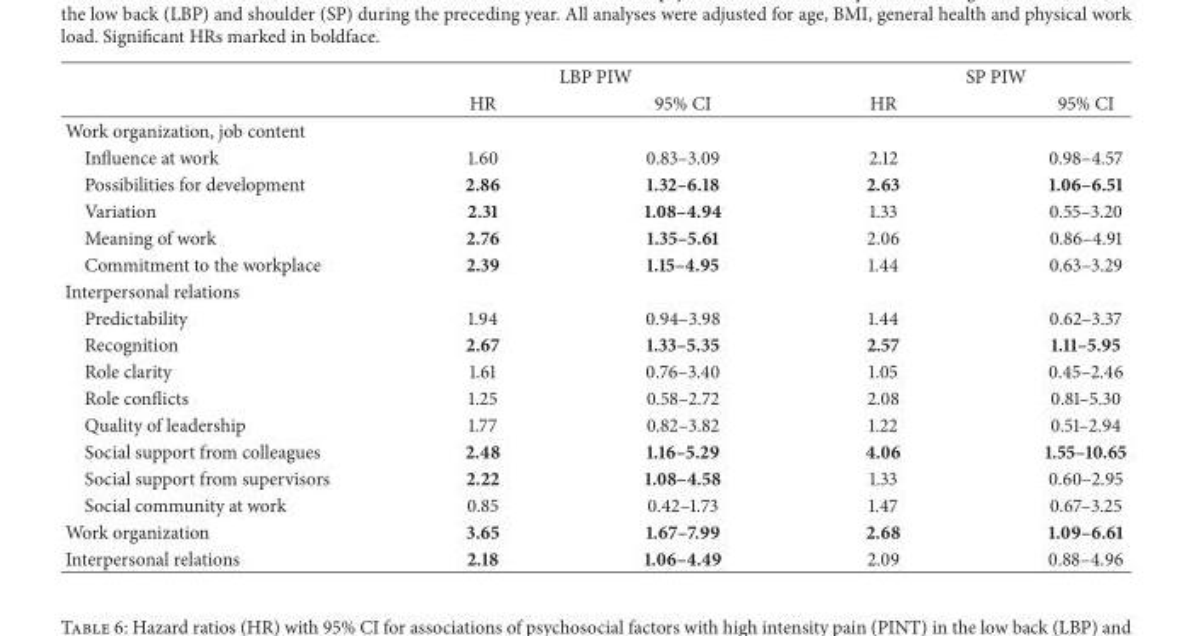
<table><thead><tr><td rowspan="2"></td><td colspan="2">LBP PIW</td><td colspan="2">SP PIW</td></tr><tr><td>HR</td><td>95% CI</td><td>HR</td><td>95% CI</td></tr></thead><tbody><tr><td colspan="5">Work organization, job content</td></tr><tr><td>Influence at work</td><td>1.60</td><td>0.83–3.09</td><td>2.12</td><td>0.98–4.57</td></tr><tr><td>Possibilities for development</td><td>2.86</td><td>1.32–6.18</td><td>2.63</td><td>1.06–6.51</td></tr><tr><td>Variation</td><td>2.31</td><td>1.08–4.94</td><td>1.33</td><td>0.55–3.20</td></tr><tr><td>Meaning of work</td><td>2.76</td><td>1.35–5.61</td><td>2.06</td><td>0.86–4.91</td></tr><tr><td>Commitment to the workplace</td><td>2.39</td><td>1.15–4.95</td><td>1.44</td><td>0.63–3.29</td></tr><tr><td colspan="5">Interpersonal relations</td></tr><tr><td>Predictability</td><td>1.94</td><td>0.94–3.98</td><td>1.44</td><td>0.62–3.37</td></tr><tr><td>Recognition</td><td>2.67</td><td>1.33–5.35</td><td>2.57</td><td>1.11–5.95</td></tr><tr><td>Role clarity</td><td>1.61</td><td>0.76–3.40</td><td>1.05</td><td>0.45–2.46</td></tr><tr><td>Role conflicts</td><td>1.25</td><td>0.58–2.72</td><td>2.08</td><td>0.81–5.30</td></tr><tr><td>Quality of leadership</td><td>1.77</td><td>0.82–3.82</td><td>1.22</td><td>0.51–2.94</td></tr><tr><td>Social support from colleagues</td><td>2.48</td><td>1.16–5.29</td><td>4.06</td><td>1.55–10.65</td></tr><tr><td>Social support from supervisors</td><td>2.22</td><td>1.08–4.58</td><td>1.33</td><td>0.60–2.95</td></tr><tr><td>Social community at work</td><td>0.85</td><td>0.42–1.73</td><td>1.47</td><td>0.67–3.25</td></tr><tr><td>Work organization</td><td>3.65</td><td>1.67–7.99</td><td>2.68</td><td>1.09–6.61</td></tr><tr><td>Interpersonal relations</td><td>2.18</td><td>1.06–4.49</td><td>2.09</td><td>0.88–4.96</td></tr></tbody></table>